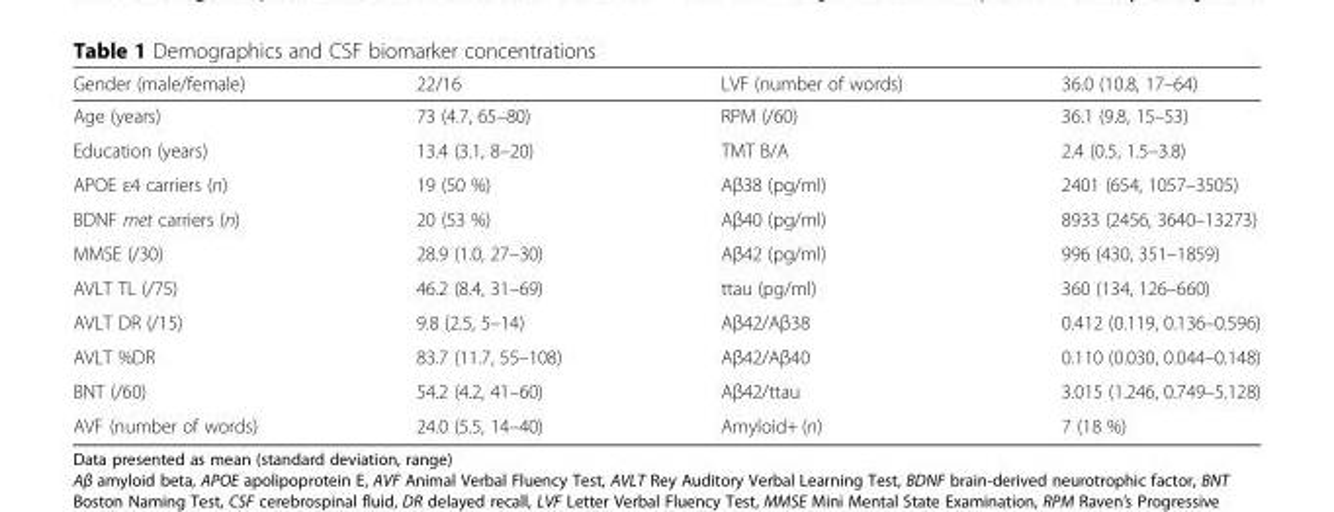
<table><thead><tr><td>Gender (male/female)</td><td>22/16</td><td>LVF (number of words)</td><td>36.0 (10.8, 17–64)</td></tr></thead><tbody><tr><td>Age (years)</td><td>73 (4.7, 65–80)</td><td>RPM (/60)</td><td>36.1 (9.8, 15–53)</td></tr><tr><td>Education (years)</td><td>13.4 (3.1, 8–20)</td><td>TMT B/A</td><td>2.4 (0.5, 1.5–3.8)</td></tr><tr><td>APOE ε4 carriers (n)</td><td>19 (50 %)</td><td>Aβ38 (pg/ml)</td><td>2401 (654, 1057–3505)</td></tr><tr><td>BDNF met carriers (n)</td><td>20 (53 %)</td><td>Aβ40 (pg/ml)</td><td>8933 (2456, 3640–13273)</td></tr><tr><td>MMSE (/30)</td><td>28.9 (1.0, 27–30)</td><td>Aβ42 (pg/ml)</td><td>996 (430, 351–1859)</td></tr><tr><td>AVLT TL (/75)</td><td>46.2 (8.4, 31–69)</td><td>ttau (pg/ml)</td><td>360 (134, 126–660)</td></tr><tr><td>AVLT DR (/15)</td><td>9.8 (2.5, 5–14)</td><td>Aβ42/Aβ38</td><td>0.412 (0.119, 0.136–0.596)</td></tr><tr><td>AVLT %DR</td><td>83.7 (11.7, 55–108)</td><td>Aβ42/Aβ40</td><td>0.110 (0.030, 0.044–0.148)</td></tr><tr><td>BNT (/60)</td><td>54.2 (4.2, 41–60)</td><td>Aβ42/ttau</td><td>3.015 (1.246, 0.749–5.128)</td></tr><tr><td>AVF (number of words)</td><td>24.0 (5.5, 14–40)</td><td>Amyloid+ (n)</td><td>7 (18 %)</td></tr></tbody></table>